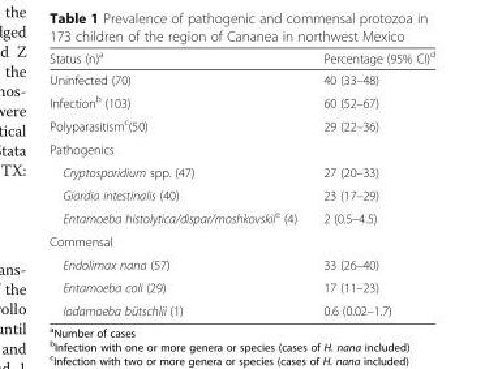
<table><thead><tr><td>Status (n)<sup>a</sup></td><td>Percentage (95% CI)<sup>d</sup></td></tr></thead><tbody><tr><td>Uninfected (70)</td><td>40 (33–48)</td></tr><tr><td>Infection<sup>b</sup> (103)</td><td>60 (52–67)</td></tr><tr><td>Polyparasitism<sup>c</sup>(50)</td><td>29 (22–36)</td></tr><tr><td colspan="2">Pathogenics</td></tr><tr><td>Cryptosporidium spp. (47)</td><td>27 (20–33)</td></tr><tr><td>Giardia intestinalis (40)</td><td>23 (17–29)</td></tr><tr><td>Entamoeba histolytica/dispar/moshkovskii<sup>e</sup> (4)</td><td>2 (0.5–4.5)</td></tr><tr><td colspan="2">Commensal</td></tr><tr><td>Endolimax nana (57)</td><td>33 (26–40)</td></tr><tr><td>Entamoeba coli (29)</td><td>17 (11–23)</td></tr><tr><td>Iodamoeba bütschlii (1)</td><td>0.6 (0.02–1.7)</td></tr></tbody></table>